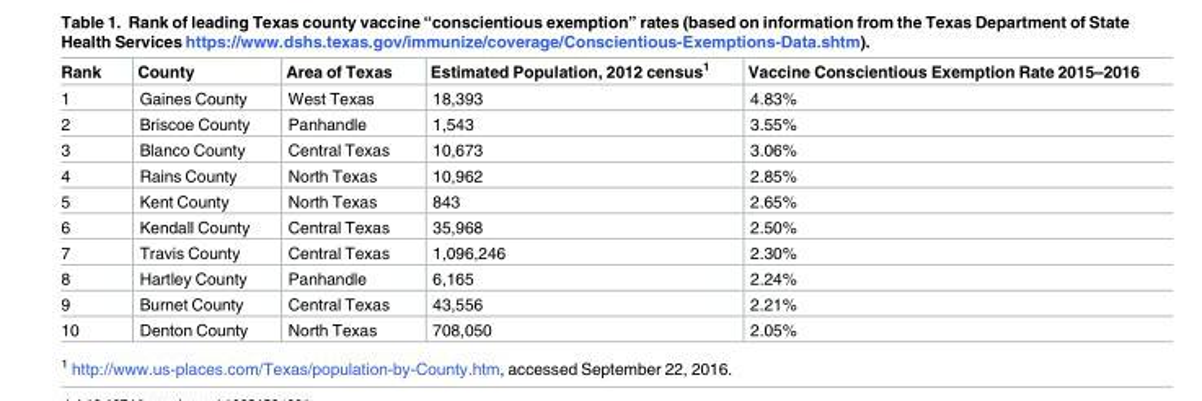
<table><thead><tr><td>Rank</td><td>County</td><td>Area of Texas</td><td>Estimated Population, 2012 census<sup>1</sup></td><td>Vaccine Conscientious Exemption Rate 2015–2016</td></tr></thead><tbody><tr><td>1</td><td>Gaines County</td><td>West Texas</td><td>18,393</td><td>4.83%</td></tr><tr><td>2</td><td>Briscoe County</td><td>Panhandle</td><td>1,543</td><td>3.55%</td></tr><tr><td>3</td><td>Blanco County</td><td>Central Texas</td><td>10,673</td><td>3.06%</td></tr><tr><td>4</td><td>Rains County</td><td>North Texas</td><td>10,962</td><td>2.85%</td></tr><tr><td>5</td><td>Kent County</td><td>North Texas</td><td>843</td><td>2.65%</td></tr><tr><td>6</td><td>Kendall County</td><td>Central Texas</td><td>35,968</td><td>2.50%</td></tr><tr><td>7</td><td>Travis County</td><td>Central Texas</td><td>1,096,246</td><td>2.30%</td></tr><tr><td>8</td><td>Hartley County</td><td>Panhandle</td><td>6,165</td><td>2.24%</td></tr><tr><td>9</td><td>Burnet County</td><td>Central Texas</td><td>43,556</td><td>2.21%</td></tr><tr><td>10</td><td>Denton County</td><td>North Texas</td><td>708,050</td><td>2.05%</td></tr></tbody></table>